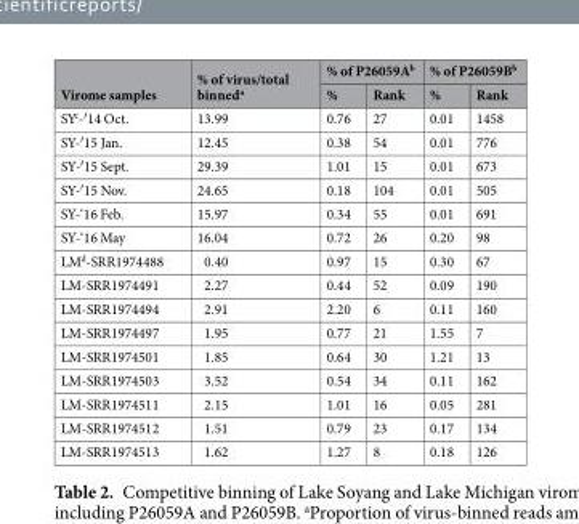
<table><thead><tr><td rowspan="2">Virome samples</td><td rowspan="2">% of virus/total binned<sup>a</sup></td><td colspan="2">% of P26059A<sup>b</sup></td><td colspan="2">% of P26059B<sup>b</sup></td></tr><tr><td>%</td><td>Rank</td><td>%</td><td>Rank</td></tr></thead><tbody><tr><td>SY<sup>c</sup>-′14 Oct.</td><td>13.99</td><td>0.76</td><td>27</td><td>0.01</td><td>1458</td></tr><tr><td>SY-′15 Jan.</td><td>12.45</td><td>0.38</td><td>54</td><td>0.01</td><td>776</td></tr><tr><td>SY-′15 Sept.</td><td>29.39</td><td>1.01</td><td>15</td><td>0.01</td><td>673</td></tr><tr><td>SY-′15 Nov.</td><td>24.65</td><td>0.18</td><td>104</td><td>0.01</td><td>505</td></tr><tr><td>SY-‘16 Feb.</td><td>15.97</td><td>0.34</td><td>55</td><td>0.01</td><td>691</td></tr><tr><td>SY-‘16 May</td><td>16.04</td><td>0.72</td><td>26</td><td>0.20</td><td>98</td></tr><tr><td>LM<sup>d</sup>-SRR1974488</td><td>0.40</td><td>0.97</td><td>15</td><td>0.30</td><td>67</td></tr><tr><td>LM-SRR1974491</td><td>2.27</td><td>0.44</td><td>52</td><td>0.09</td><td>190</td></tr><tr><td>LM-SRR1974494</td><td>2.91</td><td>2.20</td><td>6</td><td>0.11</td><td>160</td></tr><tr><td>LM-SRR1974497</td><td>1.95</td><td>0.77</td><td>21</td><td>1.55</td><td>7</td></tr><tr><td>LM-SRR1974501</td><td>1.85</td><td>0.64</td><td>30</td><td>1.21</td><td>13</td></tr><tr><td>LM-SRR1974503</td><td>3.52</td><td>0.54</td><td>34</td><td>0.11</td><td>162</td></tr><tr><td>LM-SRR1974511</td><td>2.15</td><td>1.01</td><td>16</td><td>0.05</td><td>281</td></tr><tr><td>LM-SRR1974512</td><td>1.51</td><td>0.79</td><td>23</td><td>0.17</td><td>134</td></tr><tr><td>LM-SRR1974513</td><td>1.62</td><td>1.27</td><td>8</td><td>0.18</td><td>126</td></tr></tbody></table>